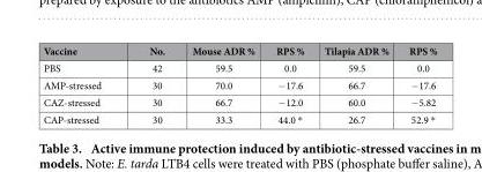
<table><thead><tr><td>Vaccine</td><td>No.</td><td>Mouse ADR %</td><td>RPS %</td><td>Tilapia ADR %</td><td>RPS %</td></tr></thead><tbody><tr><td>PBS</td><td>42</td><td>59.5</td><td>0.0</td><td>59.5</td><td>0.0</td></tr><tr><td>AMP-stressed</td><td>30</td><td>70.0</td><td>− 17.6</td><td>66.7</td><td>− 17.6</td></tr><tr><td>CAZ-stressed</td><td>30</td><td>66.7</td><td>− 12.0</td><td>60.0</td><td>− 5.82</td></tr><tr><td>CAP-stressed</td><td>30</td><td>33.3</td><td>44.0 *</td><td>26.7</td><td>52.9 *</td></tr></tbody></table>